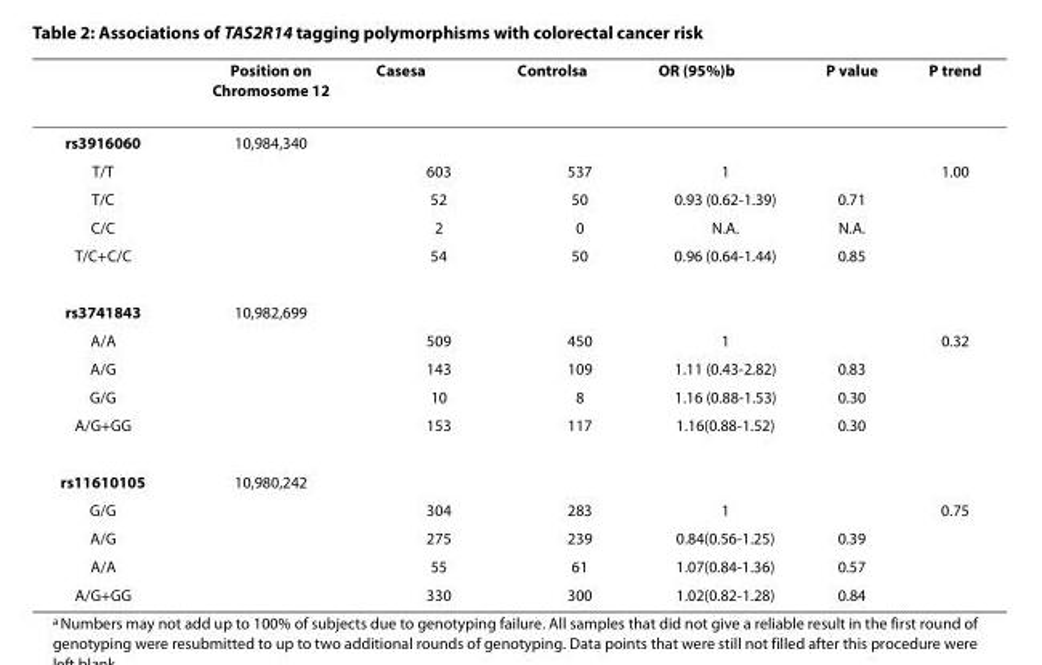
<table><thead><tr><td></td><td>Position on Chromosome 12</td><td>Cases<sup>a</sup></td><td>Controls<sup>a</sup></td><td>OR (95%)<sup>b</sup></td><td>P value</td><td>P trend</td></tr></thead><tbody><tr><td>rs3916060</td><td>10,984,340</td><td></td><td></td><td></td><td></td><td></td></tr><tr><td>T/T</td><td></td><td>603</td><td>537</td><td>1</td><td></td><td>1.00</td></tr><tr><td>T/C</td><td></td><td>52</td><td>50</td><td>0.93 (0.62-1.39)</td><td>0.71</td><td></td></tr><tr><td>C/C</td><td></td><td>2</td><td>0</td><td>N.A.</td><td>N.A.</td><td></td></tr><tr><td>T/C+C/C</td><td></td><td>54</td><td>50</td><td>0.96 (0.64-1.44)</td><td>0.85</td><td></td></tr><tr><td>rs3741843</td><td>10,982,699</td><td></td><td></td><td></td><td></td><td></td></tr><tr><td>A/A</td><td></td><td>509</td><td>450</td><td>1</td><td></td><td>0.32</td></tr><tr><td>A/G</td><td></td><td>143</td><td>109</td><td>1.11 (0.43-2.82)</td><td>0.83</td><td></td></tr><tr><td>G/G</td><td></td><td>10</td><td>8</td><td>1.16 (0.88-1.53)</td><td>0.30</td><td></td></tr><tr><td>A/G+GG</td><td></td><td>153</td><td>117</td><td>1.16(0.88-1.52)</td><td>0.30</td><td></td></tr><tr><td>rs11610105</td><td>10,980,242</td><td></td><td></td><td></td><td></td><td></td></tr><tr><td>G/G</td><td></td><td>304</td><td>283</td><td>1</td><td></td><td>0.75</td></tr><tr><td>A/G</td><td></td><td>275</td><td>239</td><td>0.84(0.56-1.25)</td><td>0.39</td><td></td></tr><tr><td>A/A</td><td></td><td>55</td><td>61</td><td>1.07(0.84-1.36)</td><td>0.57</td><td></td></tr><tr><td>A/G+GG</td><td></td><td>330</td><td>300</td><td>1.02(0.82-1.28)</td><td>0.84</td><td></td></tr></tbody></table>